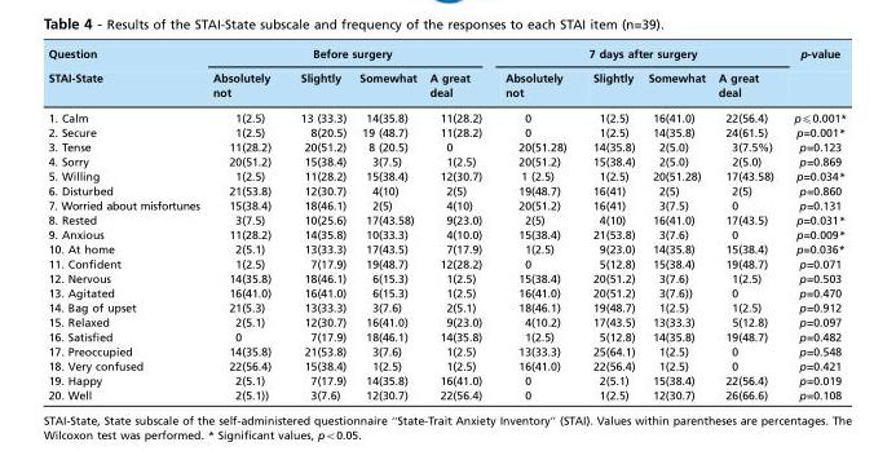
<table><thead><tr><td rowspan="2">Question STAI-State</td><td colspan="4">Before surgery</td><td colspan="4">7 days after surgery</td><td rowspan="2">p-value</td></tr><tr><td>Absolutely not</td><td>Slightly</td><td>Somewhat</td><td>A great deal</td><td>Absolutely not</td><td>Slightly</td><td>Somewhat</td><td>A great deal</td></tr></thead><tbody><tr><td>1. Calm</td><td>1(2.5)</td><td>13 (33.3)</td><td>14(35.8)</td><td>11(28.2)</td><td>0</td><td>1(2.5)</td><td>16(41.0)</td><td>22(56.4)</td><td>p≤0.001*</td></tr><tr><td>2. Secure</td><td>1(2.5)</td><td>8(20.5)</td><td>19 (48.7)</td><td>11(28.2)</td><td>0</td><td>1(2.5)</td><td>14(35.8)</td><td>24(61.5)</td><td>p=0.001*</td></tr><tr><td>3. Tense</td><td>11(28.2)</td><td>20(51.2)</td><td>8 (20.5)</td><td>0</td><td>20(51.28)</td><td>14(35.8)</td><td>2(5.0)</td><td>3(7.5%)</td><td>p=0.123</td></tr><tr><td>4. Sorry</td><td>20(51.2)</td><td>15(38.4)</td><td>3(7.5)</td><td>1(2.5)</td><td>20(51.2)</td><td>15(38.4)</td><td>2(5.0)</td><td>2(5.0)</td><td>p=0.869</td></tr><tr><td>5. Willing</td><td>1(2.5)</td><td>11(28.2)</td><td>15(38.4)</td><td>12(30.7)</td><td>1 (2.5)</td><td>1(2.5)</td><td>20(51.28)</td><td>17(43.58)</td><td>p=0.034*</td></tr><tr><td>6. Disturbed</td><td>21(53.8)</td><td>12(30.7)</td><td>4(10)</td><td>2(5)</td><td>19(48.7)</td><td>16(41)</td><td>2(5)</td><td>2(5)</td><td>p=0.860</td></tr><tr><td>7. Worried about misfortunes</td><td>15(38.4)</td><td>18(46.1)</td><td>2(5)</td><td>4(10)</td><td>20(51.2)</td><td>16(41)</td><td>3(7.5)</td><td>0</td><td>p=0.131</td></tr><tr><td>8. Rested</td><td>3(7.5)</td><td>10(25.6)</td><td>17(43.58)</td><td>9(23.0)</td><td>2(5)</td><td>4(10)</td><td>16(41.0)</td><td>17(43.5)</td><td>p=0.031*</td></tr><tr><td>9. Anxious</td><td>11(28.2)</td><td>14(35.8)</td><td>10(33.3)</td><td>4(10.0)</td><td>15(38.4)</td><td>21(53.8)</td><td>3(7.6)</td><td>0</td><td>p=0.009*</td></tr><tr><td>10. At home</td><td>2(5.1)</td><td>13(33.3)</td><td>17(43.5)</td><td>7(17.9)</td><td>1(2.5)</td><td>9(23.0)</td><td>14(35.8)</td><td>15(38.4)</td><td>p=0.036*</td></tr><tr><td>11. Confident</td><td>1(2.5)</td><td>7(17.9)</td><td>19(48.7)</td><td>12(28.2)</td><td>0</td><td>5(12.8)</td><td>15(38.4)</td><td>19(48.7)</td><td>p=0.071</td></tr><tr><td>12. Nervous</td><td>14(35.8)</td><td>18(46.1)</td><td>6(15.3)</td><td>1(2.5)</td><td>15(38.4)</td><td>20(51.2)</td><td>3(7.6)</td><td>1(2.5)</td><td>p=0.503</td></tr><tr><td>13. Agitated</td><td>16(41.0)</td><td>16(41.0)</td><td>6(15.3)</td><td>1(2.5)</td><td>16(41.0)</td><td>20(51.2)</td><td>3(7.6))</td><td>0</td><td>p=0.470</td></tr><tr><td>14. Bag of upset</td><td>21(5.3)</td><td>13(33.3)</td><td>3(7.6)</td><td>2(5.1)</td><td>18(46.1)</td><td>19(48.7)</td><td>1(2.5)</td><td>1(2.5)</td><td>p=0.912</td></tr><tr><td>15. Relaxed</td><td>2(5.1)</td><td>12(30.7)</td><td>16(41.0)</td><td>9(23.0)</td><td>4(10.2)</td><td>17(43.5)</td><td>13(33.3)</td><td>5(12.8)</td><td>p=0.097</td></tr><tr><td>16. Satisfied</td><td>0</td><td>7(17.9)</td><td>18(46.1)</td><td>14(35.8)</td><td>1(2.5)</td><td>5(12.8)</td><td>14(35.8)</td><td>19(48.7)</td><td>p=0.482</td></tr><tr><td>17. Preoccupied</td><td>14(35.8)</td><td>21(53.8)</td><td>3(7.6)</td><td>1(2.5)</td><td>13(33.3)</td><td>25(64.1)</td><td>1(2.5)</td><td>0</td><td>p=0.548</td></tr><tr><td>18. Very confused</td><td>22(56.4)</td><td>15(38.4)</td><td>1(2.5)</td><td>1(2.5)</td><td>16(41.0)</td><td>22(56.4)</td><td>1(2.5)</td><td>0</td><td>p=0.421</td></tr><tr><td>19. Happy</td><td>2(5.1)</td><td>7(17.9)</td><td>14(35.8)</td><td>16(41.0)</td><td>0</td><td>2(5.1)</td><td>15(38.4)</td><td>22(56.4)</td><td>p=0.019</td></tr><tr><td>20. Well</td><td>2(5.1))</td><td>3(7.6)</td><td>12(30.7)</td><td>22(56.4)</td><td>0</td><td>1(2.5)</td><td>12(30.7)</td><td>26(66.6)</td><td>p=0.108</td></tr></tbody></table>